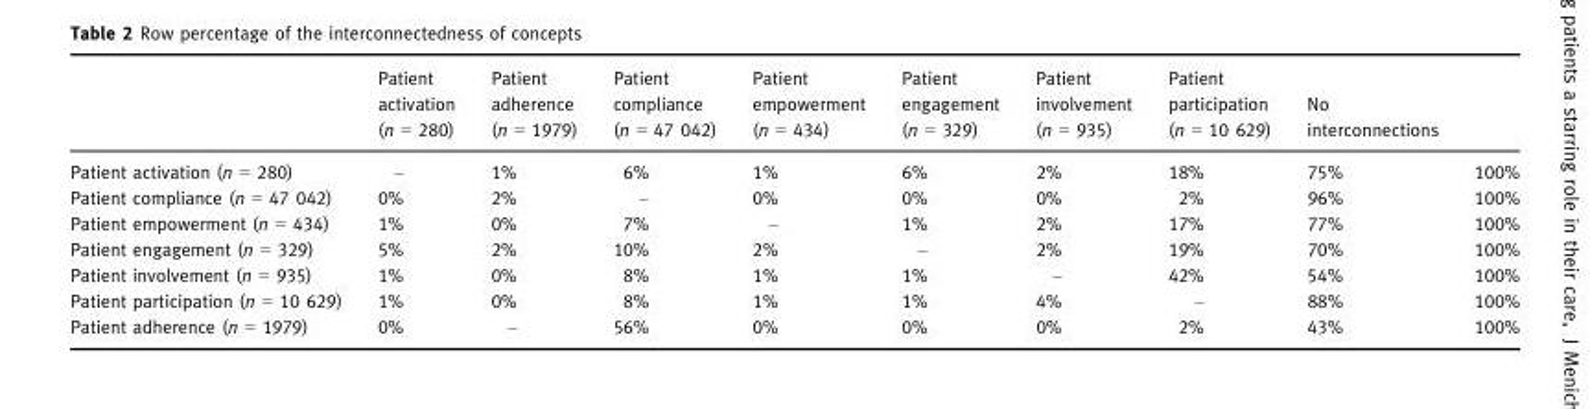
<table><thead><tr><td></td><td>Patient activation (n = 280)</td><td>Patient adherence (n = 1979)</td><td>Patient compliance (n = 47 042)</td><td>Patient empowerment (n = 434)</td><td>Patient engagement (n = 329)</td><td>Patient involvement (n = 935)</td><td>Patient participation (n = 10 629)</td><td>No interconnections</td><td></td></tr></thead><tbody><tr><td>Patient activation (n = 280)</td><td>–</td><td>1%</td><td>6%</td><td>1%</td><td>6%</td><td>2%</td><td>18%</td><td>75%</td><td>100%</td></tr><tr><td>Patient compliance (n = 47 042)</td><td>0%</td><td>2%</td><td>–</td><td>0%</td><td>0%</td><td>0%</td><td>2%</td><td>96%</td><td>100%</td></tr><tr><td>Patient empowerment (n = 434)</td><td>1%</td><td>0%</td><td>7%</td><td>–</td><td>1%</td><td>2%</td><td>17%</td><td>77%</td><td>100%</td></tr><tr><td>Patient engagement (n = 329)</td><td>5%</td><td>2%</td><td>10%</td><td>2%</td><td>–</td><td>2%</td><td>19%</td><td>70%</td><td>100%</td></tr><tr><td>Patient involvement (n = 935)</td><td>1%</td><td>0%</td><td>8%</td><td>1%</td><td>1%</td><td>–</td><td>42%</td><td>54%</td><td>100%</td></tr><tr><td>Patient participation (n = 10 629)</td><td>1%</td><td>0%</td><td>8%</td><td>1%</td><td>1%</td><td>4%</td><td>–</td><td>88%</td><td>100%</td></tr><tr><td>Patient adherence (n = 1979)</td><td>0%</td><td>–</td><td>56%</td><td>0%</td><td>0%</td><td>0%</td><td>2%</td><td>43%</td><td>100%</td></tr></tbody></table>